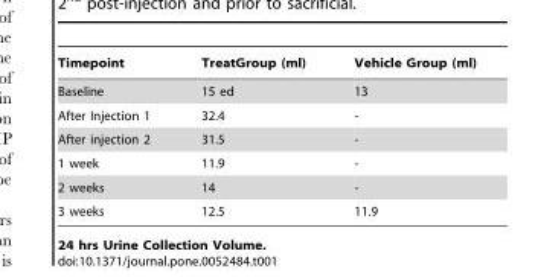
<table><thead><tr><td>Timepoint</td><td>TreatGroup (ml)</td><td>Vehicle Group (ml)</td></tr></thead><tbody><tr><td>Baseline</td><td>15 ed</td><td>13</td></tr><tr><td>After Injection 1</td><td>32.4</td><td>-</td></tr><tr><td>After injection 2</td><td>31.5</td><td>-</td></tr><tr><td>1 week</td><td>11.9</td><td>-</td></tr><tr><td>2 weeks</td><td>14</td><td>-</td></tr><tr><td>3 weeks</td><td>12.5</td><td>11.9</td></tr></tbody></table>